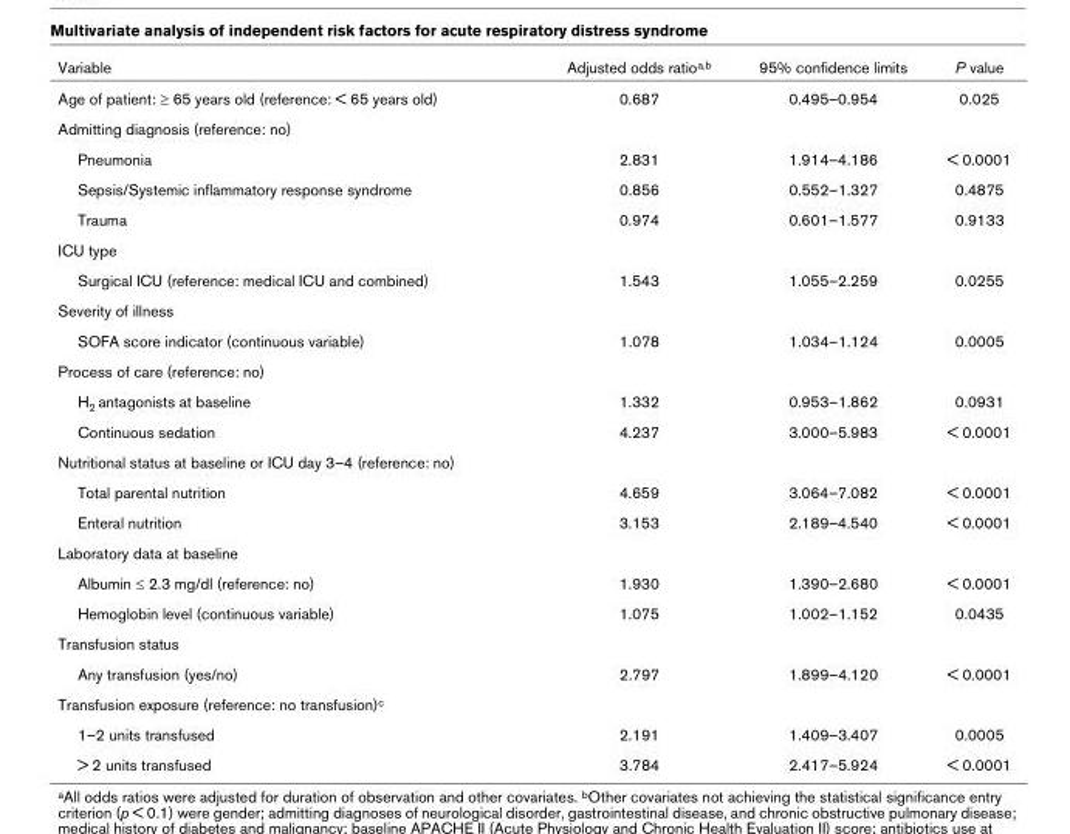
<table><thead><tr><td>Variable</td><td>Adjusted odds ratio<sup>a,b</sup></td><td>95% confidence limits</td><td>P value</td></tr></thead><tbody><tr><td>Age of patient: ≥ 65 years old (reference: &lt; 65 years old)</td><td>0.687</td><td>0.495–0.954</td><td>0.025</td></tr><tr><td colspan="4">Admitting diagnosis (reference: no)</td></tr><tr><td>Pneumonia</td><td>2.831</td><td>1.914–4.186</td><td>&lt; 0.0001</td></tr><tr><td>Sepsis/Systemic inflammatory response syndrome</td><td>0.856</td><td>0.552–1.327</td><td>0.4875</td></tr><tr><td>Trauma</td><td>0.974</td><td>0.601–1.577</td><td>0.9133</td></tr><tr><td colspan="4">ICU type</td></tr><tr><td>Surgical ICU (reference: medical ICU and combined)</td><td>1.543</td><td>1.055–2.259</td><td>0.0255</td></tr><tr><td colspan="4">Severity of illness</td></tr><tr><td>SOFA score indicator (continuous variable)</td><td>1.078</td><td>1.034–1.124</td><td>0.0005</td></tr><tr><td colspan="4">Process of care (reference: no)</td></tr><tr><td>H<sub>2</sub> antagonists at baseline</td><td>1.332</td><td>0.953–1.862</td><td>0.0931</td></tr><tr><td>Continuous sedation</td><td>4.237</td><td>3.000–5.983</td><td>&lt; 0.0001</td></tr><tr><td colspan="4">Nutritional status at baseline or ICU day 3–4 (reference: no)</td></tr><tr><td>Total parental nutrition</td><td>4.659</td><td>3.064–7.082</td><td>&lt; 0.0001</td></tr><tr><td>Enteral nutrition</td><td>3.153</td><td>2.189–4.540</td><td>&lt; 0.0001</td></tr><tr><td colspan="4">Laboratory data at baseline</td></tr><tr><td>Albumin ≤ 2.3 mg/dl (reference: no)</td><td>1.930</td><td>1.390–2.680</td><td>&lt; 0.0001</td></tr><tr><td>Hemoglobin level (continuous variable)</td><td>1.075</td><td>1.002–1.152</td><td>0.0435</td></tr><tr><td colspan="4">Transfusion status</td></tr><tr><td>Any transfusion (yes/no)</td><td>2.797</td><td>1.899–4.120</td><td>&lt; 0.0001</td></tr><tr><td colspan="4">Transfusion exposure (reference: no transfusion)<sup>c</sup></td></tr><tr><td>1–2 units transfused</td><td>2.191</td><td>1.409–3.407</td><td>0.0005</td></tr><tr><td>&gt; 2 units transfused</td><td>3.784</td><td>2.417–5.924</td><td>&lt; 0.0001</td></tr></tbody></table>